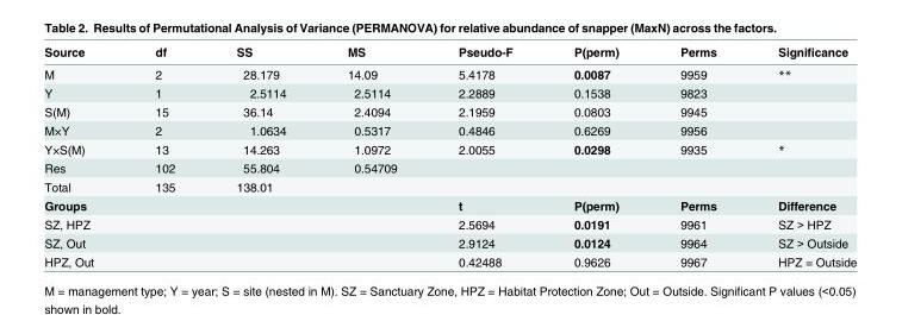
<table><thead><tr><td>Source</td><td>df</td><td>SS</td><td>MS</td><td>Pseudo-F</td><td>P(perm)</td><td>Perms</td><td>Significance</td></tr></thead><tbody><tr><td>M</td><td>2</td><td>28.179</td><td>14.09</td><td>5.4178</td><td>0.0087</td><td>9959</td><td>**</td></tr><tr><td>Y</td><td>1</td><td>2.5114</td><td>2.5114</td><td>2.2889</td><td>0.1538</td><td>9823</td><td></td></tr><tr><td>S(M)</td><td>15</td><td>36.14</td><td>2.4094</td><td>2.1959</td><td>0.0803</td><td>9945</td><td></td></tr><tr><td>M×Y</td><td>2</td><td>1.0634</td><td>0.5317</td><td>0.4846</td><td>0.6269</td><td>9956</td><td></td></tr><tr><td>Y×S(M)</td><td>13</td><td>14.263</td><td>1.0972</td><td>2.0055</td><td>0.0298</td><td>9935</td><td>*</td></tr><tr><td>Res</td><td>102</td><td>55.804</td><td>0.54709</td><td></td><td></td><td></td><td></td></tr><tr><td>Total</td><td>135</td><td>138.01</td><td></td><td></td><td></td><td></td><td></td></tr><tr><td>Groups</td><td></td><td></td><td></td><td>t</td><td>P(perm)</td><td>Perms</td><td>Difference</td></tr><tr><td>SZ, HPZ</td><td></td><td></td><td></td><td>2.5694</td><td>0.0191</td><td>9961</td><td>SZ &gt; HPZ</td></tr><tr><td>SZ, Out</td><td></td><td></td><td></td><td>2.9124</td><td>0.0124</td><td>9964</td><td>SZ &gt; Outside</td></tr><tr><td>HPZ, Out</td><td></td><td></td><td></td><td>0.42488</td><td>0.9626</td><td>9967</td><td>HPZ = Outside</td></tr></tbody></table>